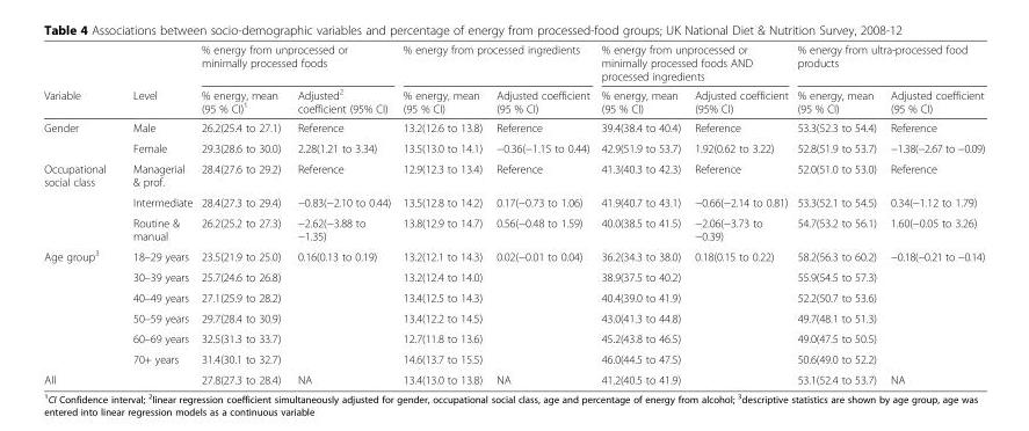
<table><thead><tr><td rowspan="2">Variable</td><td rowspan="2">Level</td><td colspan="2">% energy from unprocessed or minimally processed foods</td><td colspan="2">% energy from processed ingredients</td><td colspan="2">% energy from unprocessed or minimally processed foods AND processed ingredients</td><td colspan="2">% energy from ultra-processed food products</td></tr><tr><td>% energy, mean (95 % CI)<sup>1</sup></td><td>Adjusted<sup>2</sup> coefficient (95% CI)</td><td>% energy, mean (95 % CI)</td><td>Adjusted coefficient (95 % CI)</td><td>% energy, mean (95 % CI)</td><td>Adjusted coefficient (95% CI)</td><td>% energy, mean (95 % CI)</td><td>Adjusted coefficient (95 % CI)</td></tr></thead><tbody><tr><td rowspan="2">Gender</td><td>Male</td><td>26.2(25.4 to 27.1)</td><td>Reference</td><td>13.2(12.6 to 13.8)</td><td>Reference</td><td>39.4(38.4 to 40.4)</td><td>Reference</td><td>53.3(52.3 to 54.4)</td><td>Reference</td></tr><tr><td>Female</td><td>29.3(28.6 to 30.0)</td><td>2.28(1.21 to 3.34)</td><td>13.5(13.0 to 14.1)</td><td>−0.36(−1.15 to 0.44)</td><td>42.9(51.9 to 53.7)</td><td>1.92(0.62 to 3.22)</td><td>52.8(51.9 to 53.7)</td><td>−1.38(−2.67 to −0.09)</td></tr><tr><td rowspan="3">Occupational social class</td><td>Managerial &amp; prof.</td><td>28.4(27.6 to 29.2)</td><td>Reference</td><td>12.9(12.3 to 13.4)</td><td>Reference</td><td>41.3(40.3 to 42.3)</td><td>Reference</td><td>52.0(51.0 to 53.0)</td><td>Reference</td></tr><tr><td>Intermediate</td><td>28.4(27.3 to 29.4)</td><td>−0.83(−2.10 to 0.44)</td><td>13.5(12.8 to 14.2)</td><td>0.17(−0.73 to 1.06)</td><td>41.9(40.7 to 43.1)</td><td>−0.66(−2.14 to 0.81)</td><td>53.3(52.1 to 54.5)</td><td>0.34(−1.12 to 1.79)</td></tr><tr><td>Routine &amp; manual</td><td>26.2(25.2 to 27.3)</td><td>−2.62(−3.88 to −1.35)</td><td>13.8(12.9 to 14.7)</td><td>0.56(−0.48 to 1.59)</td><td>40.0(38.5 to 41.5)</td><td>−2.06(−3.73 to −0.39)</td><td>54.7(53.2 to 56.1)</td><td>1.60(−0.05 to 3.26)</td></tr><tr><td rowspan="6">Age group<sup>3</sup></td><td>18–29 years</td><td>23.5(21.9 to 25.0)</td><td>0.16(0.13 to 0.19)</td><td>13.2(12.1 to 14.3)</td><td>0.02(−0.01 to 0.04)</td><td>36.2(34.3 to 38.0)</td><td>0.18(0.15 to 0.22)</td><td>58.2(56.3 to 60.2)</td><td>−0.18(−0.21 to −0.14)</td></tr><tr><td>30–39 years</td><td>25.7(24.6 to 26.8)</td><td></td><td>13.2(12.4 to 14.0)</td><td></td><td>38.9(37.5 to 40.2)</td><td></td><td>55.9(54.5 to 57.3)</td><td></td></tr><tr><td>40–49 years</td><td>27.1(25.9 to 28.2)</td><td></td><td>13.4(12.5 to 14.3)</td><td></td><td>40.4(39.0 to 41.9)</td><td></td><td>52.2(50.7 to 53.6)</td><td></td></tr><tr><td>50–59 years</td><td>29.7(28.4 to 30.9)</td><td></td><td>13.4(12.2 to 14.5)</td><td></td><td>43.0(41.3 to 44.8)</td><td></td><td>49.7(48.1 to 51.3)</td><td></td></tr><tr><td>60–69 years</td><td>32.5(31.3 to 33.7)</td><td></td><td>12.7(11.8 to 13.6)</td><td></td><td>45.2(43.8 to 46.5)</td><td></td><td>49.0(47.5 to 50.5)</td><td></td></tr><tr><td>70+ years</td><td>31.4(30.1 to 32.7)</td><td></td><td>14.6(13.7 to 15.5)</td><td></td><td>46.0(44.5 to 47.5)</td><td></td><td>50.6(49.0 to 52.2)</td><td></td></tr><tr><td>All</td><td></td><td>27.8(27.3 to 28.4)</td><td>NA</td><td>13.4(13.0 to 13.8)</td><td>NA</td><td>41.2(40.5 to 41.9)</td><td></td><td>53.1(52.4 to 53.7)</td><td>NA</td></tr></tbody></table>